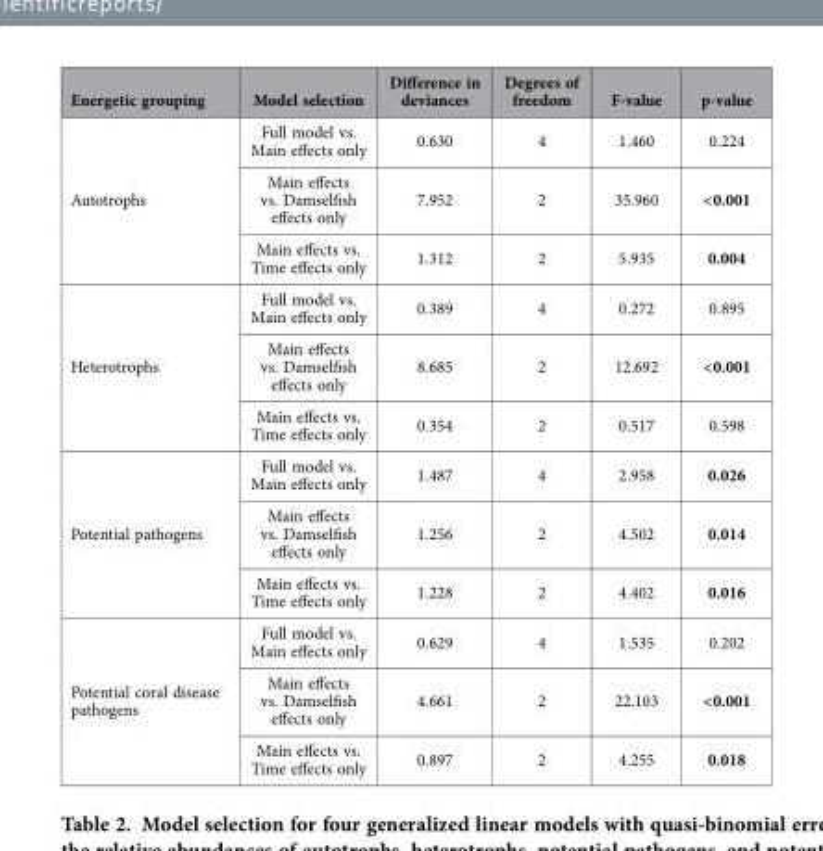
<table><thead><tr><td>Energetic grouping</td><td>Model selection</td><td>Difference in deviances</td><td>Degrees of freedom</td><td>F-value</td><td>p-value</td></tr></thead><tbody><tr><td rowspan="3">Autotrophs</td><td>Full model vs. Main effects only</td><td>0.630</td><td>4</td><td>1.460</td><td>0.224</td></tr><tr><td>Main effects vs. Damselfish effects only</td><td>7.952</td><td>2</td><td>35.960</td><td>&lt; 0.001</td></tr><tr><td>Main effects vs. Time effects only</td><td>1.312</td><td>2</td><td>5.935</td><td>0.004</td></tr><tr><td rowspan="3">Heterotrophs</td><td>Full model vs. Main effects only</td><td>0.389</td><td>4</td><td>0.272</td><td>0.895</td></tr><tr><td>Main effects vs. Damselfish effects only</td><td>8.685</td><td>2</td><td>12.692</td><td>&lt; 0.001</td></tr><tr><td>Main effects vs. Time effects only</td><td>0.354</td><td>2</td><td>0.517</td><td>0.598</td></tr><tr><td rowspan="3">Potential pathogens</td><td>Full model vs. Main effects only</td><td>1.487</td><td>4</td><td>2.958</td><td>0.026</td></tr><tr><td>Main effects vs. Damselfish effects only</td><td>1.256</td><td>2</td><td>4.502</td><td>0.014</td></tr><tr><td>Main effects vs. Time effects only</td><td>1.228</td><td>2</td><td>4.402</td><td>0.016</td></tr><tr><td rowspan="3">Potential coral disease pathogens</td><td>Full model vs. Main effects only</td><td>0.629</td><td>4</td><td>1.535</td><td>0.202</td></tr><tr><td>Main effects vs. Damselfish effects only</td><td>4.661</td><td>2</td><td>22.103</td><td>&lt; 0.001</td></tr><tr><td>Main effects vs. Time effects only</td><td>0.897</td><td>2</td><td>4.255</td><td>0.018</td></tr></tbody></table>